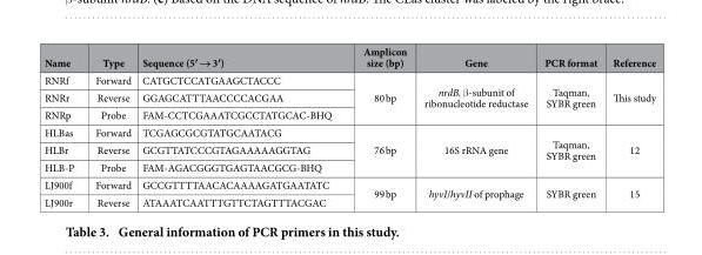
<table><thead><tr><td>Name</td><td>Type</td><td>Sequence (5′ → 3′)</td><td>Amplicon size (bp)</td><td>Gene</td><td>PCR format</td><td>Reference</td></tr></thead><tbody><tr><td>RNRf</td><td>Forward</td><td>CATGCTCCATGAAGCTACCC</td><td rowspan="3">80 bp</td><td rowspan="3">nrdB, β -subunit of ribonucleotide reductase</td><td rowspan="3">Taqman, SYBR green</td><td rowspan="3">This study</td></tr><tr><td>RNRr</td><td>Reverse</td><td>GGAGCATTTAACCCCACGAA</td></tr><tr><td>RNRp</td><td>Probe</td><td>FAM-CCTCGAAATCGCCTATGCAC-BHQ</td></tr><tr><td>HLBas</td><td>Forward</td><td>TCGAGCGCGTATGCAATACG</td><td rowspan="3">76 bp</td><td rowspan="3">16S rRNA gene</td><td rowspan="3">Taqman, SYBR green</td><td rowspan="3">12</td></tr><tr><td>HLBr</td><td>Reverse</td><td>GCGTTATCCCGTAGAAAAAGGTAG</td></tr><tr><td>HLB-P</td><td>Probe</td><td>FAM-AGACGGGTGAGTAACGCG-BHQ</td></tr><tr><td>LJ900f</td><td>Forward</td><td>GCCGTTTTAACACAAAAGATGAATATC</td><td rowspan="2">99 bp</td><td rowspan="2">hyvI/hyvII of prophage</td><td rowspan="2">SYBR green</td><td rowspan="2">15</td></tr><tr><td>LJ900r</td><td>Reverse</td><td>ATAAATCAATTTGTTCTAGTTTACGAC</td></tr></tbody></table>